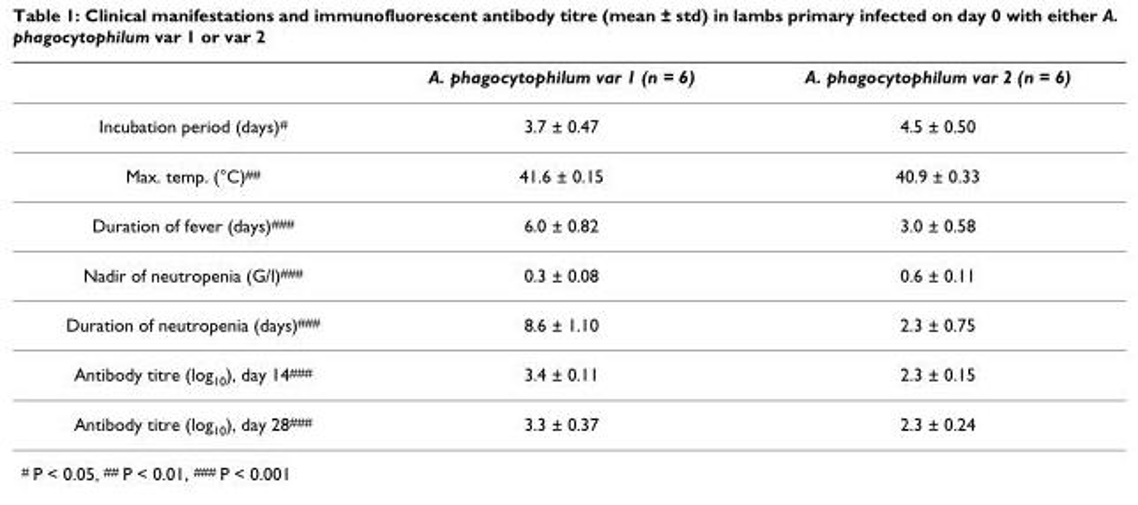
<table><thead><tr><td></td><td>A. phagocytophilum var 1 (n = 6)</td><td>A. phagocytophilum var 2 (n = 6)</td></tr></thead><tbody><tr><td>Incubation period (days)<sup>#</sup></td><td>3.7 ± 0.47</td><td>4.5 ± 0.50</td></tr><tr><td>Max. temp. (°C)<sup>##</sup></td><td>41.6 ± 0.15</td><td>40.9 ± 0.33</td></tr><tr><td>Duration of fever (days)<sup>###</sup></td><td>6.0 ± 0.82</td><td>3.0 ± 0.58</td></tr><tr><td>Nadir of neutropenia (G/l)<sup>###</sup></td><td>0.3 ± 0.08</td><td>0.6 ± 0.11</td></tr><tr><td>Duration of neutropenia (days)<sup>###</sup></td><td>8.6 ± 1.10</td><td>2.3 ± 0.75</td></tr><tr><td>Antibody titre (log<sub>10</sub>), day 14<sup>###</sup></td><td>3.4 ± 0.11</td><td>2.3 ± 0.15</td></tr><tr><td>Antibody titre (log<sub>10</sub>), day 28<sup>###</sup></td><td>3.3 ± 0.37</td><td>2.3 ± 0.24</td></tr></tbody></table>